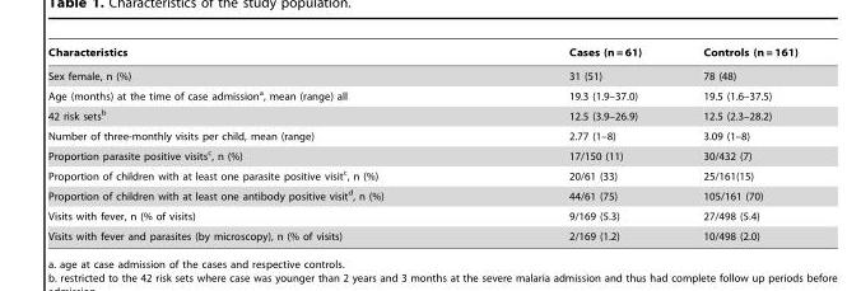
<table><thead><tr><td>Characteristics</td><td>Cases (n = 61)</td><td>Controls (n = 161)</td></tr></thead><tbody><tr><td>Sex female, n (%)</td><td>31 (51)</td><td>78 (48)</td></tr><tr><td>Age (months) at the time of case admission<sup>a</sup>, mean (range) all</td><td>19.3 (1.9–37.0)</td><td>19.5 (1.6–37.5)</td></tr><tr><td>42 risk sets<sup>b</sup></td><td>12.5 (3.9–26.9)</td><td>12.5 (2.3–28.2)</td></tr><tr><td>Number of three-monthly visits per child, mean (range)</td><td>2.77 (1–8)</td><td>3.09 (1–8)</td></tr><tr><td>Proportion parasite positive visits<sup>c</sup>, n (%)</td><td>17/150 (11)</td><td>30/432 (7)</td></tr><tr><td>Proportion of children with at least one parasite positive visit<sup>c</sup>, n (%)</td><td>20/61 (33)</td><td>25/161(15)</td></tr><tr><td>Proportion of children with at least one antibody positive visit<sup>d</sup>, n (%)</td><td>44/61 (75)</td><td>105/161 (70)</td></tr><tr><td>Visits with fever, n (% of visits)</td><td>9/169 (5.3)</td><td>27/498 (5.4)</td></tr><tr><td>Visits with fever and parasites (by microscopy), n (% of visits)</td><td>2/169 (1.2)</td><td>10/498 (2.0)</td></tr></tbody></table>